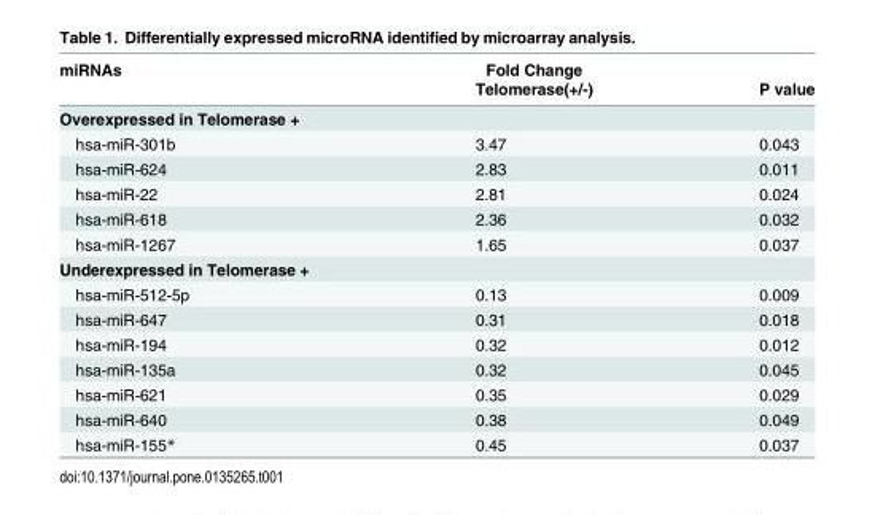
<table><thead><tr><td rowspan="2">miRNAs</td><td rowspan="2">Fold Change Telomerase(+/-)</td><td rowspan="2">P value</td></tr><tr></tr></thead><tbody><tr><td colspan="3">Overexpressed in Telomerase +</td></tr><tr><td>hsa-miR-301b</td><td>3.47</td><td>0.043</td></tr><tr><td>hsa-miR-624</td><td>2.83</td><td>0.011</td></tr><tr><td>hsa-miR-22</td><td>2.81</td><td>0.024</td></tr><tr><td>hsa-miR-618</td><td>2.36</td><td>0.032</td></tr><tr><td>hsa-miR-1267</td><td>1.65</td><td>0.037</td></tr><tr><td colspan="3">Underexpressed in Telomerase +</td></tr><tr><td>hsa-miR-512-5p</td><td>0.13</td><td>0.009</td></tr><tr><td>hsa-miR-647</td><td>0.31</td><td>0.018</td></tr><tr><td>hsa-miR-194</td><td>0.32</td><td>0.012</td></tr><tr><td>hsa-miR-135a</td><td>0.32</td><td>0.045</td></tr><tr><td>hsa-miR-621</td><td>0.35</td><td>0.029</td></tr><tr><td>hsa-miR-640</td><td>0.38</td><td>0.049</td></tr><tr><td>hsa-miR-155*</td><td>0.45</td><td>0.037</td></tr></tbody></table>